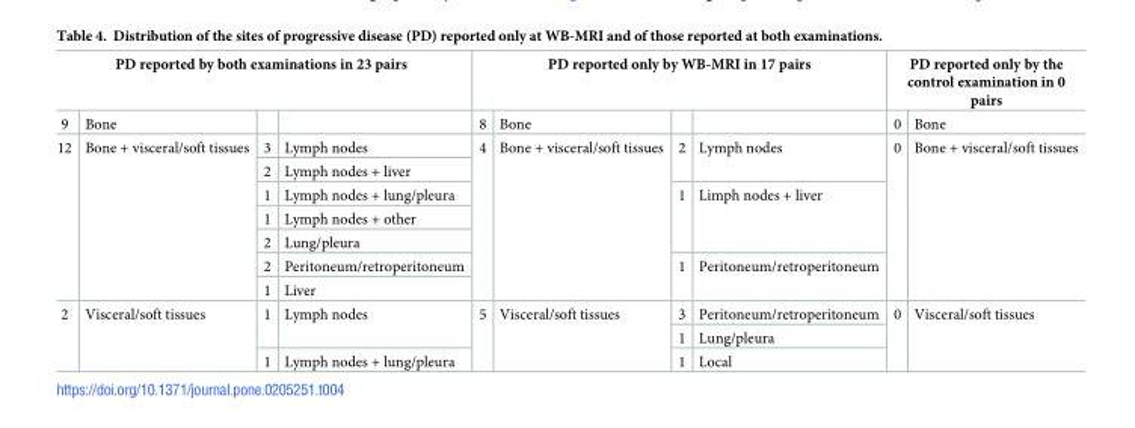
<table><thead><tr><td colspan="4">PD reported by both examinations in 23 pairs</td><td colspan="4">PD reported only by WB-MRI in 17 pairs</td><td colspan="2">PD reported only by the control examination in 0 pairs</td></tr><tr><td>9</td><td>Bone</td><td></td><td></td><td>8</td><td>Bone</td><td></td><td></td><td>0</td><td>Bone</td></tr></thead><tbody><tr><td rowspan="7">12</td><td rowspan="7">Bone + visceral/soft tissues</td><td>3</td><td>Lymph nodes</td><td rowspan="7">4</td><td rowspan="7">Bone + visceral/soft tissues</td><td rowspan="2">2</td><td rowspan="2">Lymph nodes</td><td rowspan="7">0</td><td rowspan="7">Bone + visceral/soft tissues</td></tr><tr><td>2</td><td>Lymph nodes + liver</td></tr><tr><td>1</td><td>Lymph nodes + lung/pleura</td><td rowspan="3">1</td><td rowspan="3">Limph nodes + liver</td></tr><tr><td>1</td><td>Lymph nodes + other</td></tr><tr><td>2</td><td>Lung/pleura</td></tr><tr><td>2</td><td>Peritoneum/retroperitoneum</td><td rowspan="2">1</td><td rowspan="2">Peritoneum/retroperitoneum</td></tr><tr><td>1</td><td>Liver</td></tr><tr><td rowspan="3">2</td><td rowspan="3">Visceral/soft tissues</td><td rowspan="2">1</td><td rowspan="2">Lymph nodes</td><td rowspan="3">5</td><td rowspan="3">Visceral/soft tissues</td><td>3</td><td>Peritoneum/retroperitoneum</td><td rowspan="3">0</td><td rowspan="3">Visceral/soft tissues</td></tr><tr><td>1</td><td>Lung/pleura</td></tr><tr><td>1</td><td>Lymph nodes + lung/pleura</td><td>1</td><td>Local</td></tr></tbody></table>